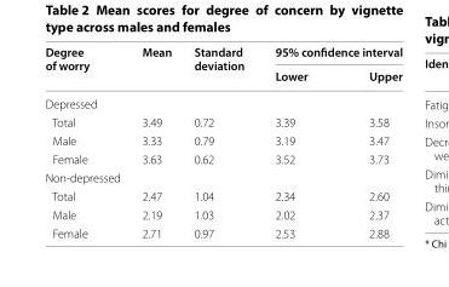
<table><thead><tr><td rowspan="2">Degree of worry</td><td rowspan="2">Mean</td><td rowspan="2">Standard deviation</td><td colspan="2">95% confidence interval</td></tr><tr><td>Lower</td><td>Upper</td></tr></thead><tbody><tr><td colspan="5">Depressed</td></tr><tr><td>Total</td><td>3.49</td><td>0.72</td><td>3.39</td><td>3.58</td></tr><tr><td>Male</td><td>3.33</td><td>0.79</td><td>3.19</td><td>3.47</td></tr><tr><td>Female</td><td>3.63</td><td>0.62</td><td>3.52</td><td>3.73</td></tr><tr><td colspan="5">Non-depressed</td></tr><tr><td>Total</td><td>2.47</td><td>1.04</td><td>2.34</td><td>2.60</td></tr><tr><td>Male</td><td>2.19</td><td>1.03</td><td>2.02</td><td>2.37</td></tr><tr><td>Female</td><td>2.71</td><td>0.97</td><td>2.53</td><td>2.88</td></tr></tbody></table>